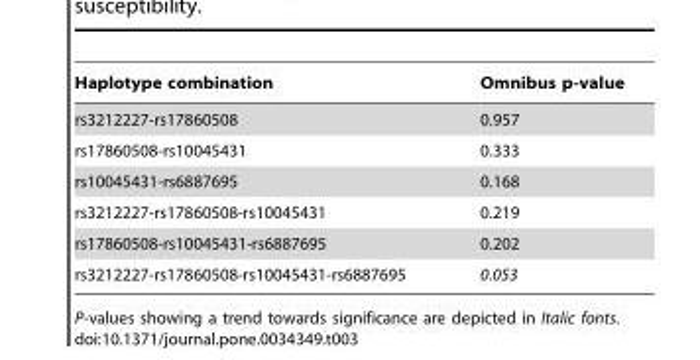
<table><thead><tr><td>Haplotype combination</td><td>Omnibus p-value</td></tr></thead><tbody><tr><td>rs3212227-rs17860508</td><td>0.957</td></tr><tr><td>rs17860508-rs10045431</td><td>0.333</td></tr><tr><td>rs10045431-rs6887695</td><td>0.168</td></tr><tr><td>rs3212227-rs17860508-rs10045431</td><td>0.219</td></tr><tr><td>rs17860508-rs10045431-rs6887695</td><td>0.202</td></tr><tr><td>rs3212227-rs17860508-rs10045431-rs6887695</td><td>0.053</td></tr></tbody></table>